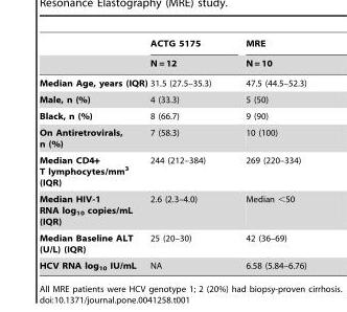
<table><thead><tr><td rowspan="2"></td><td rowspan="2">ACTG 5175 N = 12</td><td rowspan="2">MRE N = 10</td></tr><tr></tr></thead><tbody><tr><td>Median Age, years (IQR)</td><td>31.5 (27.5–35.3)</td><td>47.5 (44.5–52.3)</td></tr><tr><td>Male, n (%)</td><td>4 (33.3)</td><td>5 (50)</td></tr><tr><td>Black, n (%)</td><td>8 (66.7)</td><td>9 (90)</td></tr><tr><td>On Antiretrovirals, n (%)</td><td>7 (58.3)</td><td>10 (100)</td></tr><tr><td>Median CD4+ T lymphocytes/mm<sup>3</sup> (IQR)</td><td>244 (212–384)</td><td>269 (220–334)</td></tr><tr><td>Median HIV-1 RNA log<sub>10</sub> copies/mL (IQR)</td><td>2.6 (2.3–4.0)</td><td>Median &lt;50</td></tr><tr><td>Median Baseline ALT (U/L) (IQR)</td><td>25 (20–30)</td><td>42 (36–69)</td></tr><tr><td>HCV RNA log<sub>10</sub> IU/mL</td><td>NA</td><td>6.58 (5.84–6.76)</td></tr></tbody></table>